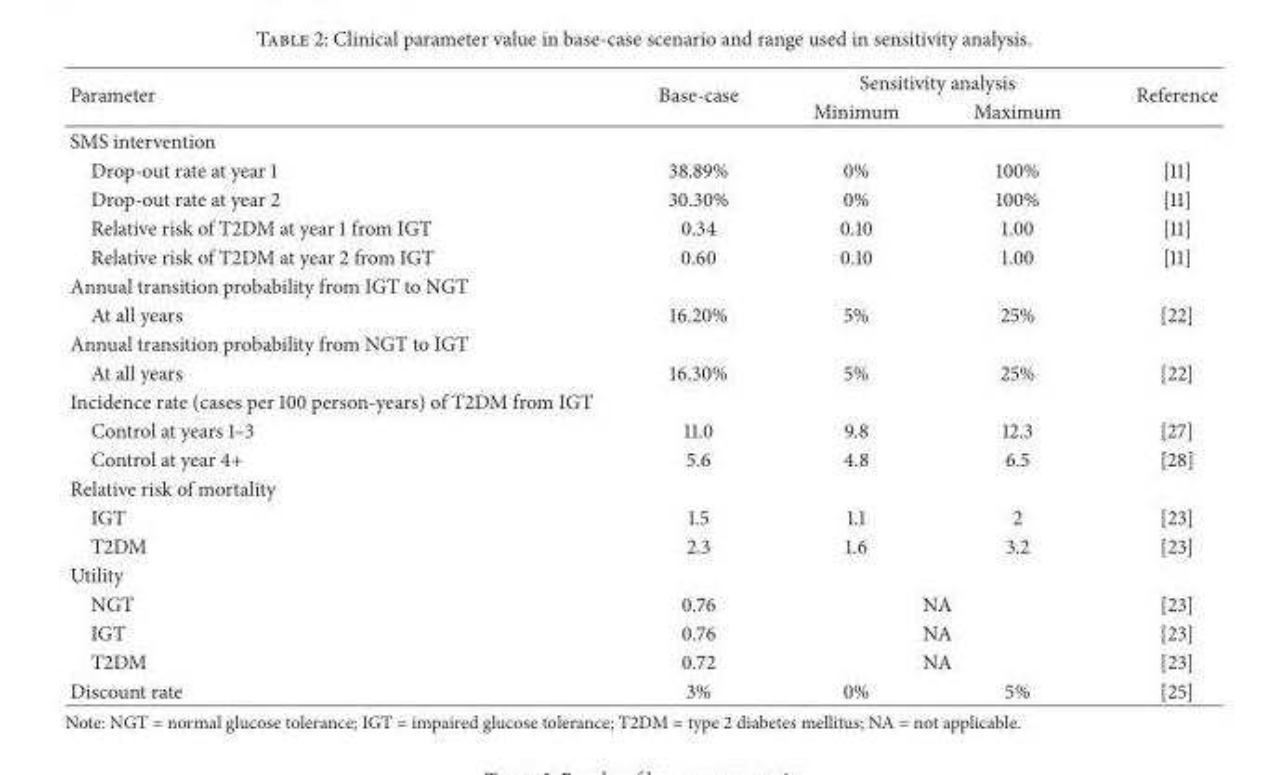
<table><thead><tr><td rowspan="2">Parameter</td><td rowspan="2">Base-case</td><td colspan="2">Sensitivity analysis</td><td rowspan="2">Reference</td></tr><tr><td>Minimum</td><td>Maximum</td></tr></thead><tbody><tr><td colspan="5">SMS intervention</td></tr><tr><td>Drop-out rate at year 1</td><td>38.89%</td><td>0%</td><td>100%</td><td>[11]</td></tr><tr><td>Drop-out rate at year 2</td><td>30.30%</td><td>0%</td><td>100%</td><td>[11]</td></tr><tr><td>Relative risk of T2DM at year 1 from IGT</td><td>0.34</td><td>0.10</td><td>1.00</td><td>[11]</td></tr><tr><td>Relative risk of T2DM at year 2 from IGT</td><td>0.60</td><td>0.10</td><td>1.00</td><td>[11]</td></tr><tr><td colspan="5">Annual transition probability from IGT to NGT</td></tr><tr><td>At all years</td><td>16.20%</td><td>5%</td><td>25%</td><td>[22]</td></tr><tr><td colspan="5">Annual transition probability from NGT to IGT</td></tr><tr><td>At all years</td><td>16.30%</td><td>5%</td><td>25%</td><td>[22]</td></tr><tr><td colspan="5">Incidence rate (cases per 100 person-years) of T2DM from IGT</td></tr><tr><td>Control at years 1–3</td><td>11.0</td><td>9.8</td><td>12.3</td><td>[27]</td></tr><tr><td>Control at year 4+</td><td>5.6</td><td>4.8</td><td>6.5</td><td>[28]</td></tr><tr><td colspan="5">Relative risk of mortality</td></tr><tr><td>IGT</td><td>1.5</td><td>1.1</td><td>2</td><td>[23]</td></tr><tr><td>T2DM</td><td>2.3</td><td>1.6</td><td>3.2</td><td>[23]</td></tr><tr><td colspan="5">Utility</td></tr><tr><td>NGT</td><td>0.76</td><td colspan="2">NA</td><td>[23]</td></tr><tr><td>IGT</td><td>0.76</td><td colspan="2">NA</td><td>[23]</td></tr><tr><td>T2DM</td><td>0.72</td><td colspan="2">NA</td><td>[23]</td></tr><tr><td>Discount rate</td><td>3%</td><td>0%</td><td>5%</td><td>[25]</td></tr></tbody></table>